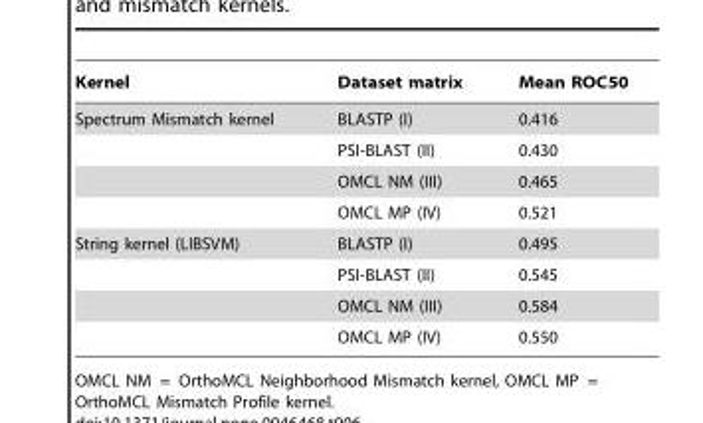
<table><thead><tr><td>Kernel</td><td>Dataset matrix</td><td>Mean ROC50</td></tr></thead><tbody><tr><td rowspan="4">Spectrum Mismatch kernel</td><td>BLASTP (I)</td><td>0.416</td></tr><tr><td>PSI-BLAST (II)</td><td>0.430</td></tr><tr><td>OMCL NM (III)</td><td>0.465</td></tr><tr><td>OMCL MP (IV)</td><td>0.521</td></tr><tr><td rowspan="4">String kernel (LIBSVM)</td><td>BLASTP (I)</td><td>0.495</td></tr><tr><td>PSI-BLAST (II)</td><td>0.545</td></tr><tr><td>OMCL NM (III)</td><td>0.584</td></tr><tr><td>OMCL MP (IV)</td><td>0.550</td></tr></tbody></table>